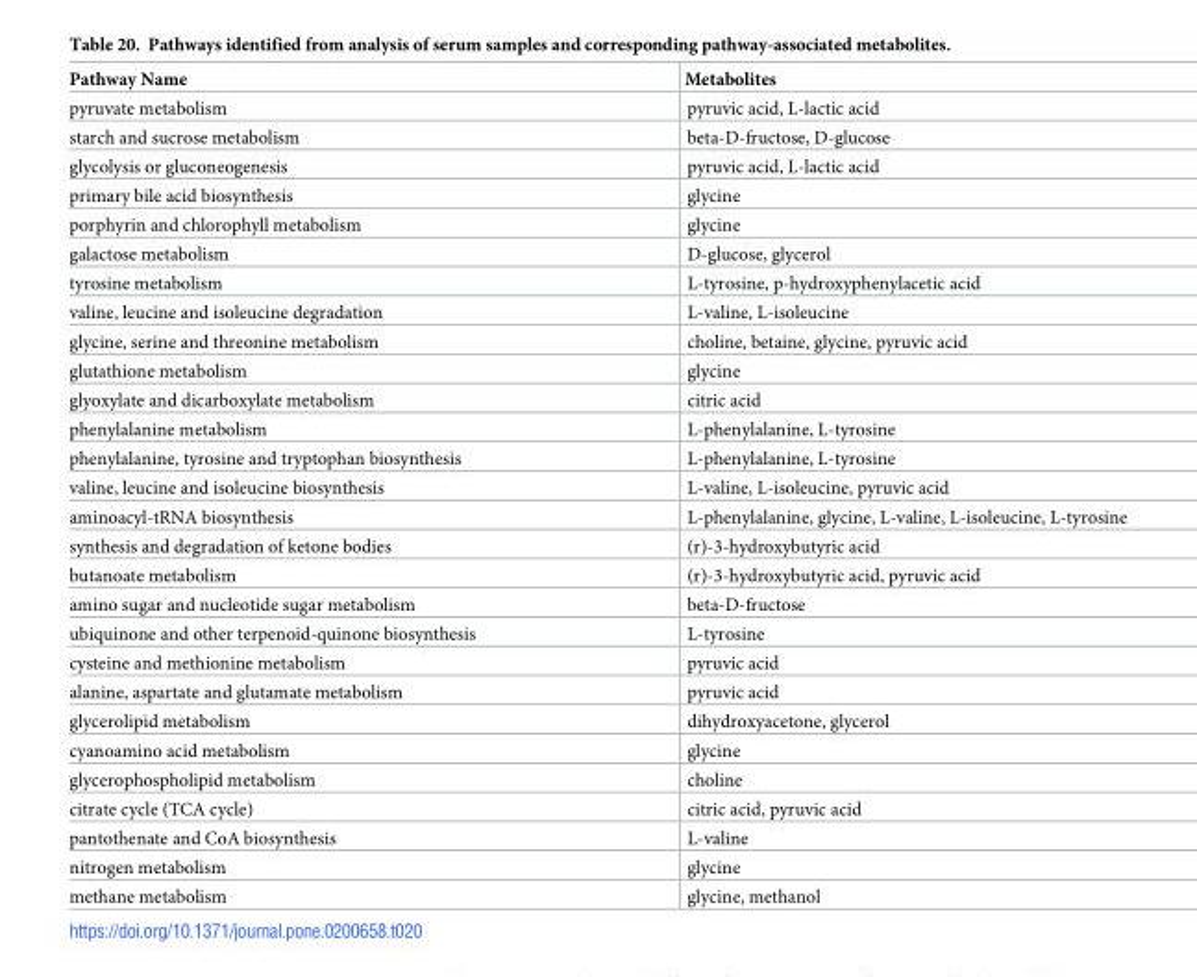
<table><thead><tr><td>Pathway Name</td><td>Metabolites</td></tr></thead><tbody><tr><td>pyruvate metabolism</td><td>pyruvic acid, L-lactic acid</td></tr><tr><td>starch and sucrose metabolism</td><td>beta-D-fructose, D-glucose</td></tr><tr><td>glycolysis or gluconeogenesis</td><td>pyruvic acid, L-lactic acid</td></tr><tr><td>primary bile acid biosynthesis</td><td>glycine</td></tr><tr><td>porphyrin and chlorophyll metabolism</td><td>glycine</td></tr><tr><td>galactose metabolism</td><td>D-glucose, glycerol</td></tr><tr><td>tyrosine metabolism</td><td>L-tyrosine, p-hydroxyphenylacetic acid</td></tr><tr><td>valine, leucine and isoleucine degradation</td><td>L-valine, L-isoleucine</td></tr><tr><td>glycine, serine and threonine metabolism</td><td>choline, betaine, glycine, pyruvic acid</td></tr><tr><td>glutathione metabolism</td><td>glycine</td></tr><tr><td>glyoxylate and dicarboxylate metabolism</td><td>citric acid</td></tr><tr><td>phenylalanine metabolism</td><td>L-phenylalanine, L-tyrosine</td></tr><tr><td>phenylalanine, tyrosine and tryptophan biosynthesis</td><td>L-phenylalanine, L-tyrosine</td></tr><tr><td>valine, leucine and isoleucine biosynthesis</td><td>L-valine, L-isoleucine, pyruvic acid</td></tr><tr><td>aminoacyl-tRNA biosynthesis</td><td>L-phenylalanine, glycine, L-valine, L-isoleucine, L-tyrosine</td></tr><tr><td>synthesis and degradation of ketone bodies</td><td>(r)-3-hydroxybutyric acid</td></tr><tr><td>butanoate metabolism</td><td>(r)-3-hydroxybutyric acid, pyruvic acid</td></tr><tr><td>amino sugar and nucleotide sugar metabolism</td><td>beta-D-fructose</td></tr><tr><td>ubiquinone and other terpenoid-quinone biosynthesis</td><td>L-tyrosine</td></tr><tr><td>cysteine and methionine metabolism</td><td>pyruvic acid</td></tr><tr><td>alanine, aspartate and glutamate metabolism</td><td>pyruvic acid</td></tr><tr><td>glycerolipid metabolism</td><td>dihydroxyacetone, glycerol</td></tr><tr><td>cyanoamino acid metabolism</td><td>glycine</td></tr><tr><td>glycerophospholipid metabolism</td><td>choline</td></tr><tr><td>citrate cycle (TCA cycle)</td><td>citric acid, pyruvic acid</td></tr><tr><td>pantothenate and CoA biosynthesis</td><td>L-valine</td></tr><tr><td>nitrogen metabolism</td><td>glycine</td></tr><tr><td>methane metabolism</td><td>glycine, methanol</td></tr></tbody></table>